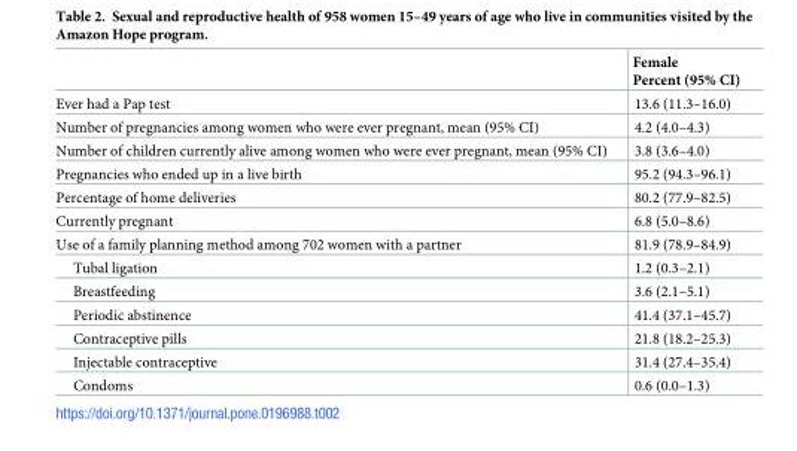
<table><thead><tr><td></td><td>Female Percent (95% CI)</td></tr></thead><tbody><tr><td>Ever had a Pap test</td><td>13.6 (11.3–16.0)</td></tr><tr><td>Number of pregnancies among women who were ever pregnant, mean (95% CI)</td><td>4.2 (4.0–4.3)</td></tr><tr><td>Number of children currently alive among women who were ever pregnant, mean (95% CI)</td><td>3.8 (3.6–4.0)</td></tr><tr><td>Pregnancies who ended up in a live birth</td><td>95.2 (94.3–96.1)</td></tr><tr><td>Percentage of home deliveries</td><td>80.2 (77.9–82.5)</td></tr><tr><td>Currently pregnant</td><td>6.8 (5.0–8.6)</td></tr><tr><td>Use of a family planning method among 702 women with a partner</td><td>81.9 (78.9–84.9)</td></tr><tr><td>Tubal ligation</td><td>1.2 (0.3–2.1)</td></tr><tr><td>Breastfeeding</td><td>3.6 (2.1–5.1)</td></tr><tr><td>Periodic abstinence</td><td>41.4 (37.1–45.7)</td></tr><tr><td>Contraceptive pills</td><td>21.8 (18.2–25.3)</td></tr><tr><td>Injectable contraceptive</td><td>31.4 (27.4–35.4)</td></tr><tr><td>Condoms</td><td>0.6 (0.0–1.3)</td></tr></tbody></table>